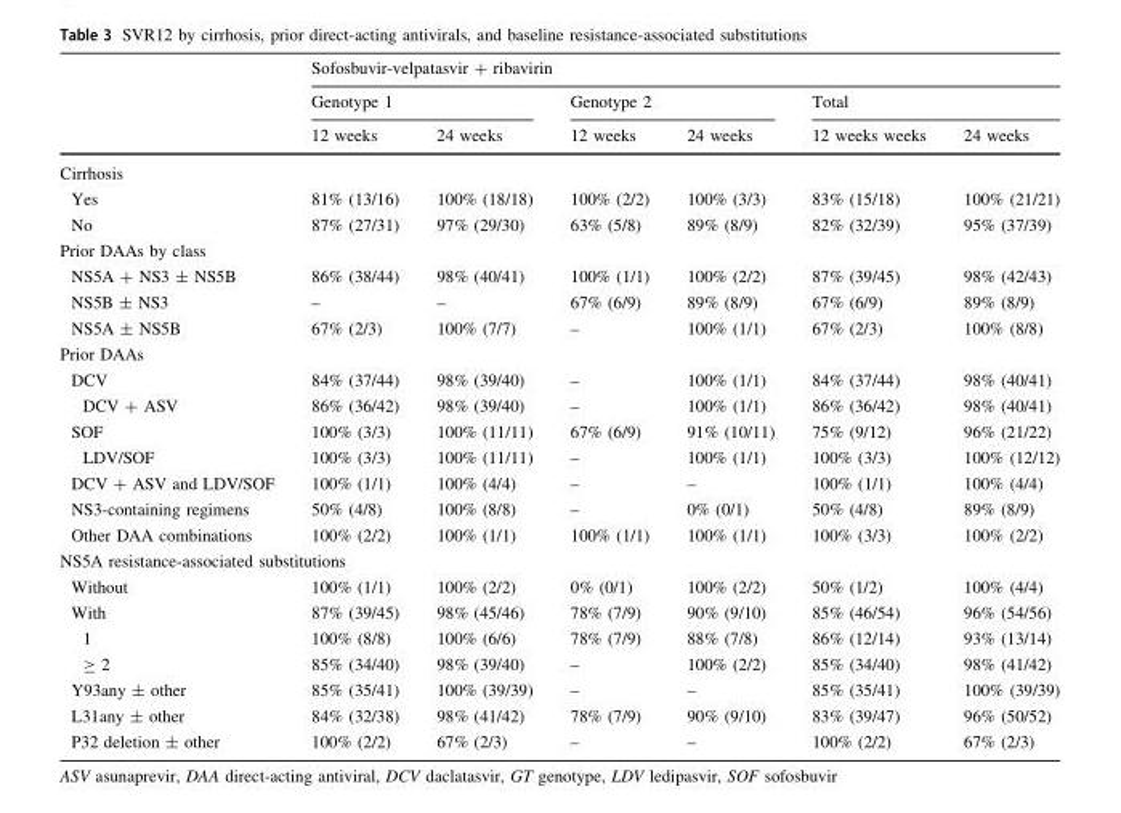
<table><thead><tr><td rowspan="3"></td><td colspan="6">Sofosbuvir-velpatasvir + ribavirin</td></tr><tr><td colspan="2">Genotype 1</td><td colspan="2">Genotype 2</td><td colspan="2">Total</td></tr><tr><td>12 weeks</td><td>24 weeks</td><td>12 weeks</td><td>24 weeks</td><td>12 weeks weeks</td><td>24 weeks</td></tr></thead><tbody><tr><td colspan="7">Cirrhosis</td></tr><tr><td>Yes</td><td>81% (13/16)</td><td>100% (18/18)</td><td>100% (2/2)</td><td>100% (3/3)</td><td>83% (15/18)</td><td>100% (21/21)</td></tr><tr><td>No</td><td>87% (27/31)</td><td>97% (29/30)</td><td>63% (5/8)</td><td>89% (8/9)</td><td>82% (32/39)</td><td>95% (37/39)</td></tr><tr><td colspan="7">Prior DAAs by class</td></tr><tr><td>NS5A + NS3 ± NS5B</td><td>86% (38/44)</td><td>98% (40/41)</td><td>100% (1/1)</td><td>100% (2/2)</td><td>87% (39/45)</td><td>98% (42/43)</td></tr><tr><td>NS5B ± NS3</td><td>–</td><td>–</td><td>67% (6/9)</td><td>89% (8/9)</td><td>67% (6/9)</td><td>89% (8/9)</td></tr><tr><td>NS5A ± NS5B</td><td>67% (2/3)</td><td>100% (7/7)</td><td>–</td><td>100% (1/1)</td><td>67% (2/3)</td><td>100% (8/8)</td></tr><tr><td colspan="7">Prior DAAs</td></tr><tr><td>DCV</td><td>84% (37/44)</td><td>98% (39/40)</td><td>–</td><td>100% (1/1)</td><td>84% (37/44)</td><td>98% (40/41)</td></tr><tr><td>DCV + ASV</td><td>86% (36/42)</td><td>98% (39/40)</td><td>–</td><td>100% (1/1)</td><td>86% (36/42)</td><td>98% (40/41)</td></tr><tr><td>SOF</td><td>100% (3/3)</td><td>100% (11/11)</td><td>67% (6/9)</td><td>91% (10/11)</td><td>75% (9/12)</td><td>96% (21/22)</td></tr><tr><td>LDV/SOF</td><td>100% (3/3)</td><td>100% (11/11)</td><td>–</td><td>100% (1/1)</td><td>100% (3/3)</td><td>100% (12/12)</td></tr><tr><td>DCV + ASV and LDV/SOF</td><td>100% (1/1)</td><td>100% (4/4)</td><td>–</td><td>–</td><td>100% (1/1)</td><td>100% (4/4)</td></tr><tr><td>NS3-containing regimens</td><td>50% (4/8)</td><td>100% (8/8)</td><td>–</td><td>0% (0/1)</td><td>50% (4/8)</td><td>89% (8/9)</td></tr><tr><td>Other DAA combinations</td><td>100% (2/2)</td><td>100% (1/1)</td><td>100% (1/1)</td><td>100% (1/1)</td><td>100% (3/3)</td><td>100% (2/2)</td></tr><tr><td colspan="7">NS5A resistance-associated substitutions</td></tr><tr><td>Without</td><td>100% (1/1)</td><td>100% (2/2)</td><td>0% (0/1)</td><td>100% (2/2)</td><td>50% (1/2)</td><td>100% (4/4)</td></tr><tr><td>With</td><td>87% (39/45)</td><td>98% (45/46)</td><td>78% (7/9)</td><td>90% (9/10)</td><td>85% (46/54)</td><td>96% (54/56)</td></tr><tr><td>1</td><td>100% (8/8)</td><td>100% (6/6)</td><td>78% (7/9)</td><td>88% (7/8)</td><td>86% (12/14)</td><td>93% (13/14)</td></tr><tr><td>≥ 2</td><td>85% (34/40)</td><td>98% (39/40)</td><td>–</td><td>100% (2/2)</td><td>85% (34/40)</td><td>98% (41/42)</td></tr><tr><td>Y93any ± other</td><td>85% (35/41)</td><td>100% (39/39)</td><td>–</td><td>–</td><td>85% (35/41)</td><td>100% (39/39)</td></tr><tr><td>L31any ± other</td><td>84% (32/38)</td><td>98% (41/42)</td><td>78% (7/9)</td><td>90% (9/10)</td><td>83% (39/47)</td><td>96% (50/52)</td></tr><tr><td>P32 deletion ± other</td><td>100% (2/2)</td><td>67% (2/3)</td><td>–</td><td>–</td><td>100% (2/2)</td><td>67% (2/3)</td></tr></tbody></table>